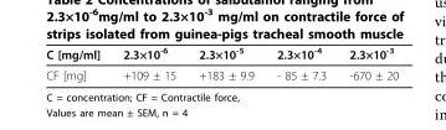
<table><thead><tr><td>C [mg/ml]</td><td>2.3×10<sup>-6</sup></td><td>2.3×10<sup>-5</sup></td><td>2.3×10<sup>-4</sup></td><td>2.3×10<sup>-3</sup></td></tr></thead><tbody><tr><td>CF [mg]</td><td>+109 ± 15</td><td>+183 ± 9.9</td><td>- 85 ± 7.3</td><td>-670 ± 20</td></tr></tbody></table>